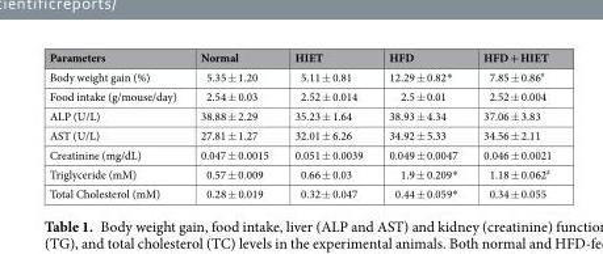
<table><thead><tr><td>Parameters</td><td>Normal</td><td>HIET</td><td>HFD</td><td>HFD + HIET</td></tr></thead><tbody><tr><td>Body weight gain (%)</td><td>5.35 ± 1.20</td><td>5.11 ± 0.81</td><td>12.29 ± 0.82*</td><td>7.85 ± 0.86<sup>#</sup></td></tr><tr><td>Food intake (g/mouse/day)</td><td>2.54 ± 0.03</td><td>2.52 ± 0.014</td><td>2.5 ± 0.01</td><td>2.52 ± 0.004</td></tr><tr><td>ALP (U/L)</td><td>38.88 ± 2.29</td><td>35.23 ± 1.64</td><td>38.93 ± 4.34</td><td>37.06 ± 3.83</td></tr><tr><td>AST (U/L)</td><td>27.81 ± 1.27</td><td>32.01 ± 6.26</td><td>34.92 ± 5.33</td><td>34.56 ± 2.11</td></tr><tr><td>Creatinine (mg/dL)</td><td>0.047 ± 0.0015</td><td>0.051 ± 0.0039</td><td>0.049 ± 0.0047</td><td>0.046 ± 0.0021</td></tr><tr><td>Triglyceride (mM)</td><td>0.57 ± 0.009</td><td>0.66 ± 0.03</td><td>1.9 ± 0.209*</td><td>1.18 ± 0.062<sup>#</sup></td></tr><tr><td>Total Cholesterol (mM)</td><td>0.28 ± 0.019</td><td>0.32 ± 0.047</td><td>0.44 ± 0.059*</td><td>0.34 ± 0.055</td></tr></tbody></table>